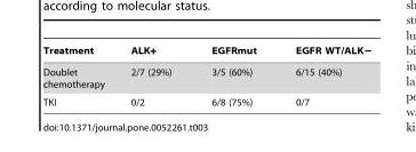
<table><thead><tr><td>Treatment</td><td>ALK+</td><td>EGFRmut</td><td>EGFR WT/ALK−</td></tr></thead><tbody><tr><td>Doublet chemotherapy</td><td>2/7 (29%)</td><td>3/5 (60%)</td><td>6/15 (40%)</td></tr><tr><td>TKI</td><td>0/2</td><td>6/8 (75%)</td><td>0/7</td></tr></tbody></table>